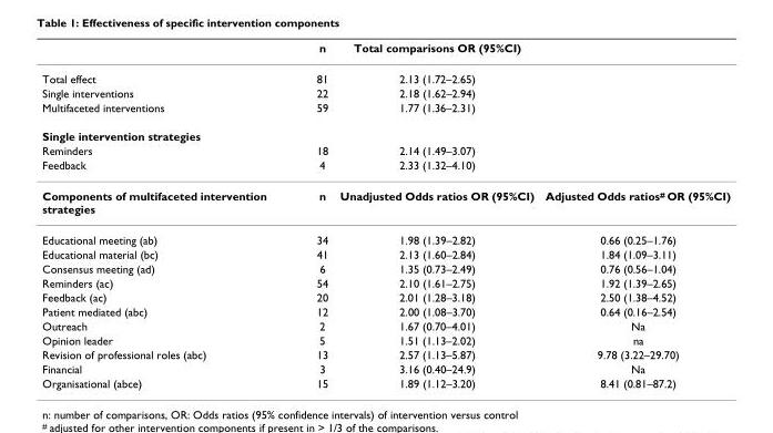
<table><thead><tr><td></td><td>n</td><td>Total comparisons OR (95%CI)</td><td></td></tr></thead><tbody><tr><td>Total effect</td><td>81</td><td>2.13 (1.72–2.65)</td><td></td></tr><tr><td>Single interventions</td><td>22</td><td>2.18 (1.62–2.94)</td><td></td></tr><tr><td>Multifaceted interventions</td><td>59</td><td>1.77 (1.36–2.31)</td><td></td></tr><tr><td colspan="4">Single intervention strategies</td></tr><tr><td>Reminders</td><td>18</td><td>2.14 (1.49–3.07)</td><td></td></tr><tr><td>Feedback</td><td>4</td><td>2.33 (1.32–4.10)</td><td></td></tr><tr><td>Components of multifaceted intervention strategies</td><td>n</td><td>Unadjusted Odds ratios OR (95%CI)</td><td>Adjusted Odds ratios# OR (95%CI)</td></tr><tr><td>Educational meeting (ab)</td><td>34</td><td>1.98 (1.39–2.82)</td><td>0.66 (0.25–1.76)</td></tr><tr><td>Educational material (bc)</td><td>41</td><td>2.13 (1.60–2.84)</td><td>1.84 (1.09–3.11)</td></tr><tr><td>Consensus meeting (ad)</td><td>6</td><td>1.35 (0.73–2.49)</td><td>0.76 (0.56–1.04)</td></tr><tr><td>Reminders (ac)</td><td>54</td><td>2.10 (1.61–2.75)</td><td>1.92 (1.39–2.65)</td></tr><tr><td>Feedback (ac)</td><td>20</td><td>2.01 (1.28–3.18)</td><td>2.50 (1.38–4.52)</td></tr><tr><td>Patient mediated (abc)</td><td>12</td><td>2.00 (1.08–3.70)</td><td>0.64 (0.16–2.54)</td></tr><tr><td>Outreach</td><td>2</td><td>1.67 (0.70–4.01)</td><td>Na</td></tr><tr><td>Opinion leader</td><td>5</td><td>1.51 (1.13–2.02)</td><td>na</td></tr><tr><td>Revision of professional roles (abc)</td><td>13</td><td>2.57 (1.13–5.87)</td><td>9.78 (3.22–29.70)</td></tr><tr><td>Financial</td><td>3</td><td>3.16 (0.40–24.9)</td><td>Na</td></tr><tr><td>Organisational (abce)</td><td>15</td><td>1.89 (1.12–3.20)</td><td>8.41 (0.81–87.2)</td></tr></tbody></table>